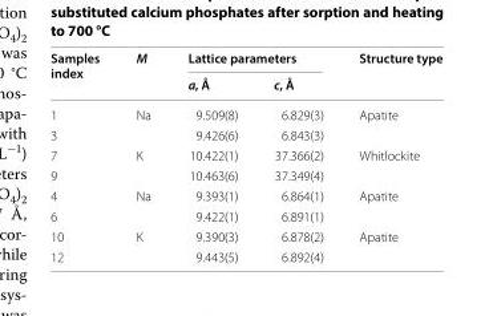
<table><thead><tr><td rowspan="2">Samples index</td><td rowspan="2">M</td><td colspan="2">Lattice parameters</td><td rowspan="2">Structure type</td></tr><tr><td>a, Å</td><td>c, Å</td></tr></thead><tbody><tr><td>1</td><td rowspan="2">Na</td><td>9.509(8)</td><td>6.829(3)</td><td rowspan="2">Apatite</td></tr><tr><td>3</td><td>9.426(6)</td><td>6.843(3)</td></tr><tr><td>7</td><td rowspan="2">K</td><td>10.422(1)</td><td>37.366(2)</td><td rowspan="2">Whitlockite</td></tr><tr><td>9</td><td>10.463(6)</td><td>37.349(4)</td></tr><tr><td>4</td><td rowspan="2">Na</td><td>9.393(1)</td><td>6.864(1)</td><td rowspan="2">Apatite</td></tr><tr><td>6</td><td>9.422(1)</td><td>6.891(1)</td></tr><tr><td>10</td><td rowspan="2">K</td><td>9.390(3)</td><td>6.878(2)</td><td rowspan="2">Apatite</td></tr><tr><td>12</td><td>9.443(5)</td><td>6.892(4)</td></tr></tbody></table>